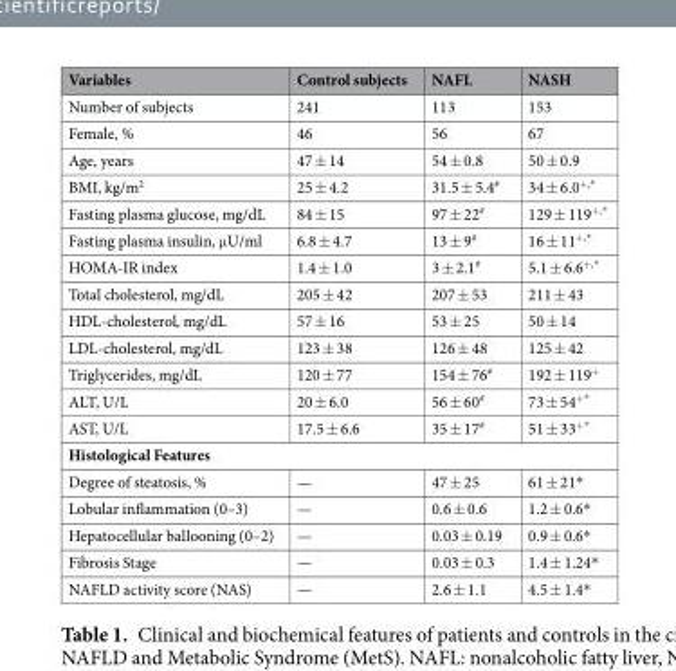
<table><thead><tr><td>Variables</td><td>Control subjects</td><td>NAFL</td><td>NASH</td></tr></thead><tbody><tr><td>Number of subjects</td><td>241</td><td>113</td><td>153</td></tr><tr><td>Female, %</td><td>46</td><td>56</td><td>67</td></tr><tr><td>Age, years</td><td>47 ± 14</td><td>54 ± 0.8</td><td>50 ± 0.9</td></tr><tr><td>BMI, kg/m<sup>2</sup></td><td>25 ± 4.2</td><td>31.5 ± 5.4<sup>#</sup></td><td>34 ± 6.0<sup>+,*</sup></td></tr><tr><td>Fasting plasma glucose, mg/dL</td><td>84 ± 15</td><td>97 ± 22<sup>#</sup></td><td>129 ± 119<sup>+,*</sup></td></tr><tr><td>Fasting plasma insulin, μU/ml</td><td>6.8 ± 4.7</td><td>13 ± 9<sup>#</sup></td><td>16 ± 11<sup>+,*</sup></td></tr><tr><td>HOMA-IR index</td><td>1.4 ± 1.0</td><td>3 ± 2.1<sup>#</sup></td><td>5.1 ± 6.6<sup>+,*</sup></td></tr><tr><td>Total cholesterol, mg/dL</td><td>205 ± 42</td><td>207 ± 53</td><td>211 ± 43</td></tr><tr><td>HDL-cholesterol, mg/dL</td><td>57 ± 16</td><td>53 ± 25</td><td>50 ± 14</td></tr><tr><td>LDL-cholesterol, mg/dL</td><td>123 ± 38</td><td>126 ± 48</td><td>125 ± 42</td></tr><tr><td>Triglycerides, mg/dL</td><td>120 ± 77</td><td>154 ± 76<sup>#</sup></td><td>192 ± 119<sup>+</sup></td></tr><tr><td>ALT, U/L</td><td>20 ± 6.0</td><td>56 ± 60<sup>#</sup></td><td>73 ± 54<sup>+*</sup></td></tr><tr><td>AST, U/L</td><td>17.5 ± 6.6</td><td>35 ± 17<sup>#</sup></td><td>51 ± 33<sup>+*</sup></td></tr><tr><td colspan="4">Histological Features</td></tr><tr><td>Degree of steatosis, %</td><td>—</td><td>47 ± 25</td><td>61 ± 21*</td></tr><tr><td>Lobular inflammation (0–3)</td><td>—</td><td>0.6 ± 0.6</td><td>1.2 ± 0.6*</td></tr><tr><td>Hepatocellular ballooning (0–2)</td><td>—</td><td>0.03 ± 0.19</td><td>0.9 ± 0.6*</td></tr><tr><td>Fibrosis Stage</td><td>—</td><td>0.03 ± 0.3</td><td>1.4 ± 1.24*</td></tr><tr><td>NAFLD activity score (NAS)</td><td>—</td><td>2.6 ± 1.1</td><td>4.5 ± 1.4*</td></tr></tbody></table>